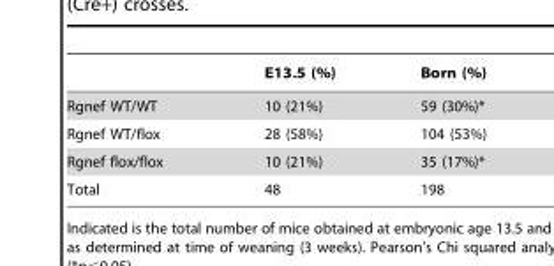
<table><thead><tr><td></td><td>E13.5 (%)</td><td>Born (%)</td></tr></thead><tbody><tr><td>Rgnef WT/WT</td><td>10 (21%)</td><td>59 (30%)*</td></tr><tr><td>Rgnef WT/flox</td><td>28 (58%)</td><td>104 (53%)</td></tr><tr><td>Rgnef flox/flox</td><td>10 (21%)</td><td>35 (17%)*</td></tr><tr><td>Total</td><td>48</td><td>198</td></tr></tbody></table>